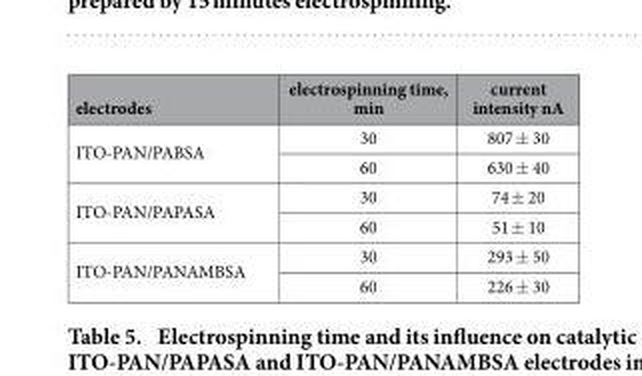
<table><thead><tr><td>electrodes</td><td>electrospinning time, min</td><td>current intensity nA</td></tr></thead><tbody><tr><td rowspan="2">ITO-PAN/PABSA</td><td>30</td><td>807 ± 30</td></tr><tr><td>60</td><td>630 ± 40</td></tr><tr><td rowspan="2">ITO-PAN/PAPASA</td><td>30</td><td>74 ± 20</td></tr><tr><td>60</td><td>51 ± 10</td></tr><tr><td rowspan="2">ITO-PAN/PANAMBSA</td><td>30</td><td>293 ± 50</td></tr><tr><td>60</td><td>226 ± 30</td></tr></tbody></table>